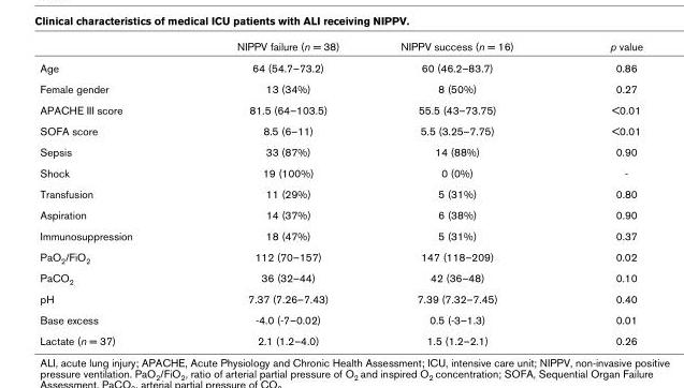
<table><thead><tr><td></td><td>NIPPV failure (n = 38)</td><td>NIPPV success (n = 16)</td><td>p value</td></tr></thead><tbody><tr><td>Age</td><td>64 (54.7–73.2)</td><td>60 (46.2–83.7)</td><td>0.86</td></tr><tr><td>Female gender</td><td>13 (34%)</td><td>8 (50%)</td><td>0.27</td></tr><tr><td>APACHE III score</td><td>81.5 (64–103.5)</td><td>55.5 (43–73.75)</td><td>&lt;0.01</td></tr><tr><td>SOFA score</td><td>8.5 (6–11)</td><td>5.5 (3.25–7.75)</td><td>&lt;0.01</td></tr><tr><td>Sepsis</td><td>33 (87%)</td><td>14 (88%)</td><td>0.90</td></tr><tr><td>Shock</td><td>19 (100%)</td><td>0 (0%)</td><td>-</td></tr><tr><td>Transfusion</td><td>11 (29%)</td><td>5 (31%)</td><td>0.80</td></tr><tr><td>Aspiration</td><td>14 (37%)</td><td>6 (38%)</td><td>0.90</td></tr><tr><td>Immunosuppression</td><td>18 (47%)</td><td>5 (31%)</td><td>0.37</td></tr><tr><td>PaO2/FiO2</td><td>112 (70–157)</td><td>147 (118–209)</td><td>0.02</td></tr><tr><td>PaCO2</td><td>36 (32–44)</td><td>42 (36–48)</td><td>0.10</td></tr><tr><td>pH</td><td>7.37 (7.26–7.43)</td><td>7.39 (7.32–7.45)</td><td>0.40</td></tr><tr><td>Base excess</td><td>-4.0 (-7–0.02)</td><td>0.5 (-3–1.3)</td><td>0.01</td></tr><tr><td>Lactate (n = 37)</td><td>2.1 (1.2–4.0)</td><td>1.5 (1.2–2.1)</td><td>0.26</td></tr></tbody></table>